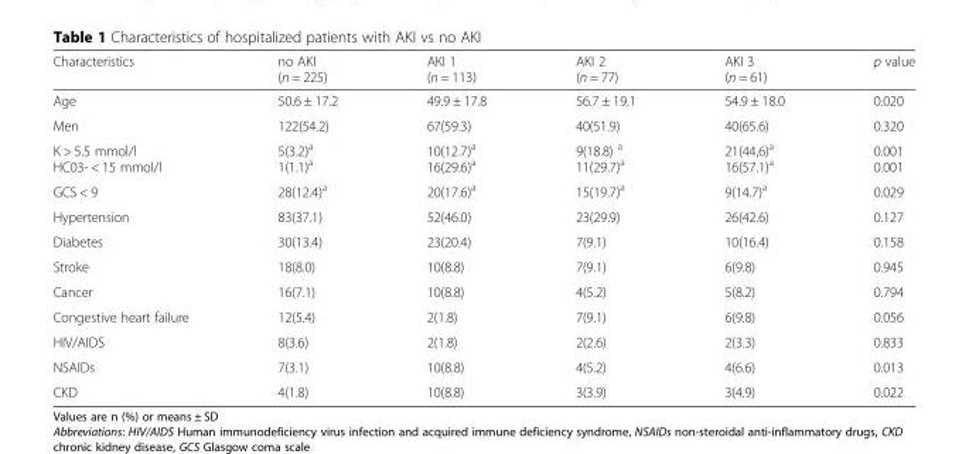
<table><thead><tr><td>Characteristics</td><td>no AKI (n = 225)</td><td>AKI 1 (n = 113)</td><td>AKI 2 (n = 77)</td><td>AKI 3 (n = 61)</td><td>p value</td></tr></thead><tbody><tr><td>Age</td><td>50.6 ± 17.2</td><td>49.9 ± 17.8</td><td>56.7 ± 19.1</td><td>54.9 ± 18.0</td><td>0.020</td></tr><tr><td>Men</td><td>122(54.2)</td><td>67(59.3)</td><td>40(51.9)</td><td>40(65.6)</td><td>0.320</td></tr><tr><td>K &gt; 5.5 mmol/l HC03- &lt; 15 mmol/l</td><td>5(3.2)<sup>a</sup> 1(1.1)<sup>a</sup></td><td>10(12.7)<sup>a</sup> 16(29.6)<sup>a</sup></td><td>9(18.8) <sup>a</sup> 11(29.7)<sup>a</sup></td><td>21(44,6)<sup>a</sup> 16(57.1)<sup>a</sup></td><td>0.001 0.001</td></tr><tr><td>GCS &lt; 9</td><td>28(12.4)<sup>a</sup></td><td>20(17.6)<sup>a</sup></td><td>15(19.7)<sup>a</sup></td><td>9(14.7)<sup>a</sup></td><td>0.029</td></tr><tr><td>Hypertension</td><td>83(37.1)</td><td>52(46.0)</td><td>23(29.9)</td><td>26(42.6)</td><td>0.127</td></tr><tr><td>Diabetes</td><td>30(13.4)</td><td>23(20.4)</td><td>7(9.1)</td><td>10(16.4)</td><td>0.158</td></tr><tr><td>Stroke</td><td>18(8.0)</td><td>10(8.8)</td><td>7(9.1)</td><td>6(9.8)</td><td>0.945</td></tr><tr><td>Cancer</td><td>16(7.1)</td><td>10(8.8)</td><td>4(5.2)</td><td>5(8.2)</td><td>0.794</td></tr><tr><td>Congestive heart failure</td><td>12(5.4)</td><td>2(1.8)</td><td>7(9.1)</td><td>6(9.8)</td><td>0.056</td></tr><tr><td>HIV/AIDS</td><td>8(3.6)</td><td>2(1.8)</td><td>2(2.6)</td><td>2(3.3)</td><td>0.833</td></tr><tr><td>NSAIDs</td><td>7(3.1)</td><td>10(8.8)</td><td>4(5.2)</td><td>4(6.6)</td><td>0.013</td></tr><tr><td>CKD</td><td>4(1.8)</td><td>10(8.8)</td><td>3(3.9)</td><td>3(4.9)</td><td>0.022</td></tr></tbody></table>